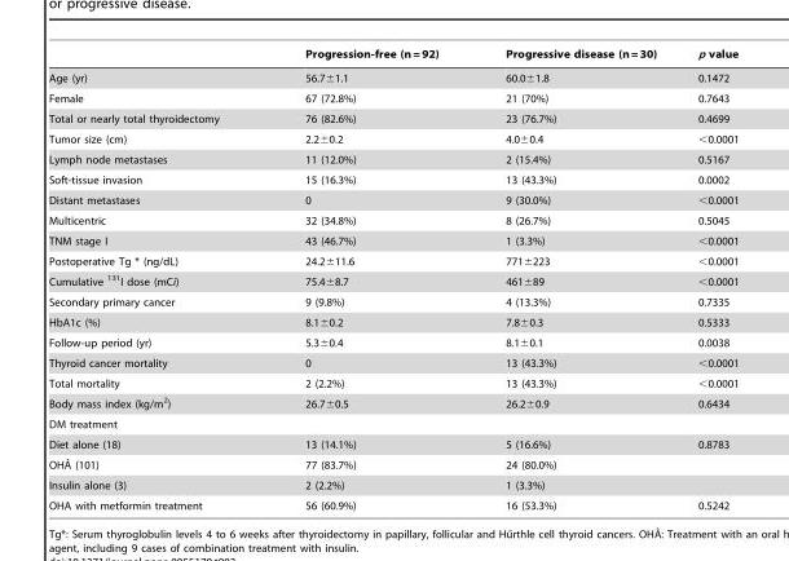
<table><thead><tr><td></td><td>Progression-free (n = 92)</td><td>Progressive disease (n = 30)</td><td>p value</td></tr></thead><tbody><tr><td>Age (yr)</td><td>56.7±1.1</td><td>60.0±1.8</td><td>0.1472</td></tr><tr><td>Female</td><td>67 (72.8%)</td><td>21 (70%)</td><td>0.7643</td></tr><tr><td>Total or nearly total thyroidectomy</td><td>76 (82.6%)</td><td>23 (76.7%)</td><td>0.4699</td></tr><tr><td>Tumor size (cm)</td><td>2.2±0.2</td><td>4.0±0.4</td><td>&lt;0.0001</td></tr><tr><td>Lymph node metastases</td><td>11 (12.0%)</td><td>2 (15.4%)</td><td>0.5167</td></tr><tr><td>Soft-tissue invasion</td><td>15 (16.3%)</td><td>13 (43.3%)</td><td>0.0002</td></tr><tr><td>Distant metastases</td><td>0</td><td>9 (30.0%)</td><td>&lt;0.0001</td></tr><tr><td>Multicentric</td><td>32 (34.8%)</td><td>8 (26.7%)</td><td>0.5045</td></tr><tr><td>TNM stage I</td><td>43 (46.7%)</td><td>1 (3.3%)</td><td>&lt;0.0001</td></tr><tr><td>Postoperative Tg * (ng/dL)</td><td>24.2±11.6</td><td>771±223</td><td>&lt;0.0001</td></tr><tr><td>Cumulative <sup>131</sup>I dose (mCi)</td><td>75.4±8.7</td><td>461±89</td><td>&lt;0.0001</td></tr><tr><td>Secondary primary cancer</td><td>9 (9.8%)</td><td>4 (13.3%)</td><td>0.7335</td></tr><tr><td>HbA1c (%)</td><td>8.1±0.2</td><td>7.8±0.3</td><td>0.5333</td></tr><tr><td>Follow-up period (yr)</td><td>5.3±0.4</td><td>8.1±0.1</td><td>0.0038</td></tr><tr><td>Thyroid cancer mortality</td><td>0</td><td>13 (43.3%)</td><td>&lt;0.0001</td></tr><tr><td>Total mortality</td><td>2 (2.2%)</td><td>13 (43.3%)</td><td>&lt;0.0001</td></tr><tr><td>Body mass index (kg/m<sup>2</sup>)</td><td>26.7±0.5</td><td>26.2±0.9</td><td>0.6434</td></tr><tr><td colspan="4">DM treatment</td></tr><tr><td>Diet alone (18)</td><td>13 (14.1%)</td><td>5 (16.6%)</td><td>0.8783</td></tr><tr><td>OHAˆ (101)</td><td>77 (83.7%)</td><td>24 (80.0%)</td><td></td></tr><tr><td>Insulin alone (3)</td><td>2 (2.2%)</td><td>1 (3.3%)</td><td></td></tr><tr><td>OHA with metformin treatment</td><td>56 (60.9%)</td><td>16 (53.3%)</td><td>0.5242</td></tr></tbody></table>